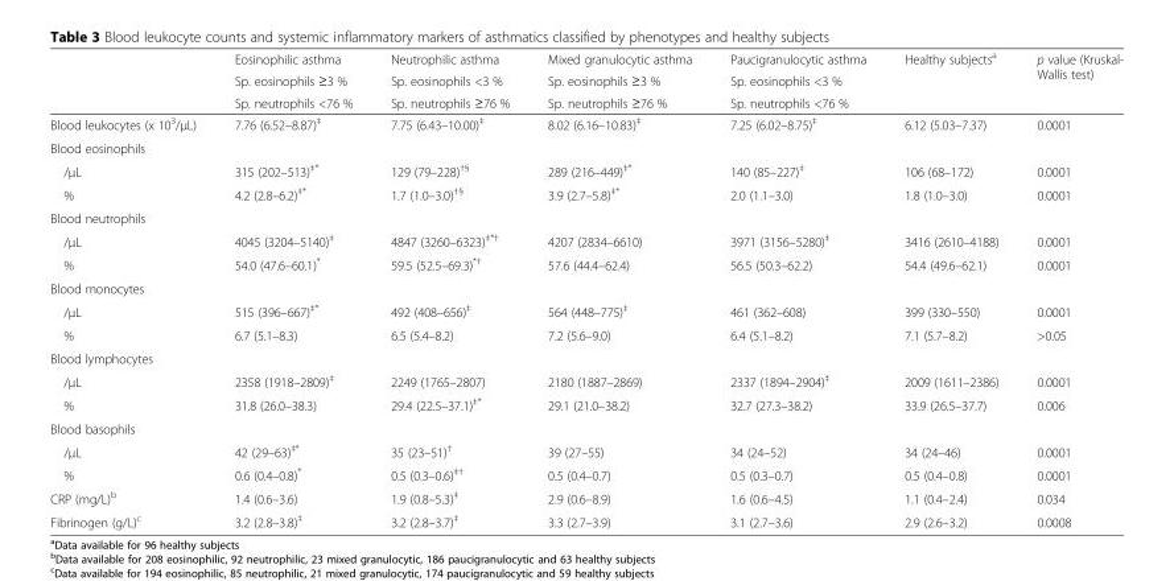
<table><thead><tr><td rowspan="3"></td><td rowspan="3">Eosinophilic asthma Sp. eosinophils ≥3 % Sp. neutrophils &lt;76 %</td><td rowspan="3">Neutrophilic asthma Sp. eosinophils &lt;3 % Sp. neutrophils ≥76 %</td><td rowspan="3">Mixed granulocytic asthma Sp. eosinophils ≥3 % Sp. neutrophils ≥76 %</td><td rowspan="3">Paucigranulocytic asthma Sp. eosinophils &lt;3 % Sp. neutrophils &lt;76 %</td><td rowspan="3">Healthy subjects<sup>a</sup></td><td rowspan="3">p value (Kruskal- Wallis test)</td></tr><tr></tr><tr></tr></thead><tbody><tr><td>Blood leukocytes (x 10<sup>3</sup>/μL)</td><td>7.76 (6.52–8.87)<sup>‡</sup></td><td>7.75 (6.43–10.00)<sup>‡</sup></td><td>8.02 (6.16–10.83)<sup>‡</sup></td><td>7.25 (6.02–8.75)<sup>‡</sup></td><td>6.12 (5.03–7.37)</td><td>0.0001</td></tr><tr><td colspan="7">Blood eosinophils</td></tr><tr><td>/μL</td><td>315 (202–513)<sup>‡*</sup></td><td>129 (79–228)<sup>†§</sup></td><td>289 (216–449)<sup>‡*</sup></td><td>140 (85–227)<sup>‡</sup></td><td>106 (68–172)</td><td>0.0001</td></tr><tr><td>%</td><td>4.2 (2.8–6.2)<sup>‡*</sup></td><td>1.7 (1.0–3.0)<sup>†§</sup></td><td>3.9 (2.7–5.8)<sup>‡*</sup></td><td>2.0 (1.1–3.0)</td><td>1.8 (1.0–3.0)</td><td>0.0001</td></tr><tr><td colspan="7">Blood neutrophils</td></tr><tr><td>/μL</td><td>4045 (3204–5140)<sup>‡</sup></td><td>4847 (3260–6323)<sup>‡*†</sup></td><td>4207 (2834–6610)</td><td>3971 (3156–5280)<sup>‡</sup></td><td>3416 (2610–4188)</td><td>0.0001</td></tr><tr><td>%</td><td>54.0 (47.6–60.1)*</td><td>59.5 (52.5–69.3)<sup>*†</sup></td><td>57.6 (44.4–62.4)</td><td>56.5 (50.3–62.2)</td><td>54.4 (49.6–62.1)</td><td>0.0001</td></tr><tr><td colspan="7">Blood monocytes</td></tr><tr><td>/μL</td><td>515 (396–667)<sup>‡*</sup></td><td>492 (408–656)<sup>‡</sup></td><td>564 (448–775)<sup>‡</sup></td><td>461 (362–608)</td><td>399 (330–550)</td><td>0.0001</td></tr><tr><td>%</td><td>6.7 (5.1–8.3)</td><td>6.5 (5.4–8.2)</td><td>7.2 (5.6–9.0)</td><td>6.4 (5.1–8.2)</td><td>7.1 (5.7–8.2)</td><td>&gt;0.05</td></tr><tr><td colspan="7">Blood lymphocytes</td></tr><tr><td>/μL</td><td>2358 (1918–2809)<sup>‡</sup></td><td>2249 (1765–2807)</td><td>2180 (1887–2869)</td><td>2337 (1894–2904)<sup>‡</sup></td><td>2009 (1611–2386)</td><td>0.0001</td></tr><tr><td>%</td><td>31.8 (26.0–38.3)</td><td>29.4 (22.5–37.1)<sup>‡*</sup></td><td>29.1 (21.0–38.2)</td><td>32.7 (27.3–38.2)</td><td>33.9 (26.5–37.7)</td><td>0.006</td></tr><tr><td colspan="7">Blood basophils</td></tr><tr><td>/μL</td><td>42 (29–63)<sup>‡*</sup></td><td>35 (23–51)<sup>†</sup></td><td>39 (27–55)</td><td>34 (24–52)</td><td>34 (24–46)</td><td>0.0001</td></tr><tr><td>%</td><td>0.6 (0.4–0.8)*</td><td>0.5 (0.3–0.6)<sup>‡†</sup></td><td>0.5 (0.4–0.7)</td><td>0.5 (0.3–0.7)</td><td>0.5 (0.4–0.8)</td><td>0.0001</td></tr><tr><td>CRP (mg/L)<sup>b</sup></td><td>1.4 (0.6–3.6)</td><td>1.9 (0.8–5.3)<sup>‡</sup></td><td>2.9 (0.6–8.9)</td><td>1.6 (0.6–4.5)</td><td>1.1 (0.4–2.4)</td><td>0.034</td></tr><tr><td>Fibrinogen (g/L)<sup>c</sup></td><td>3.2 (2.8–3.8)<sup>‡</sup></td><td>3.2 (2.8–3.7)<sup>‡</sup></td><td>3.3 (2.7–3.9)</td><td>3.1 (2.7–3.6)</td><td>2.9 (2.6–3.2)</td><td>0.0008</td></tr></tbody></table>